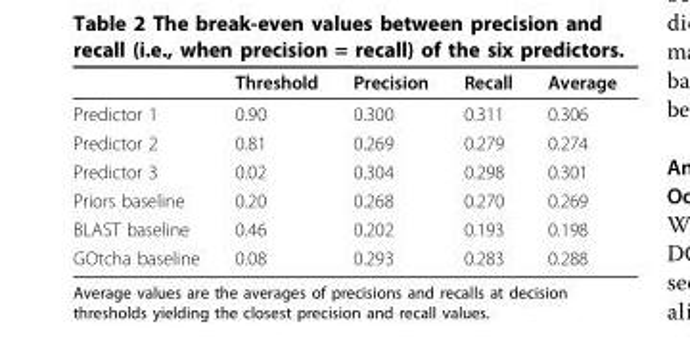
<table><thead><tr><td></td><td>Threshold</td><td>Precision</td><td>Recall</td><td>Average</td></tr></thead><tbody><tr><td>Predictor 1</td><td>0.90</td><td>0.300</td><td>0.311</td><td>0.306</td></tr><tr><td>Predictor 2</td><td>0.81</td><td>0.269</td><td>0.279</td><td>0.274</td></tr><tr><td>Predictor 3</td><td>0.02</td><td>0.304</td><td>0.298</td><td>0.301</td></tr><tr><td>Priors baseline</td><td>0.20</td><td>0.268</td><td>0.270</td><td>0.269</td></tr><tr><td>BLAST baseline</td><td>0.46</td><td>0.202</td><td>0.193</td><td>0.198</td></tr><tr><td>GOtcha baseline</td><td>0.08</td><td>0.293</td><td>0.283</td><td>0.288</td></tr></tbody></table>